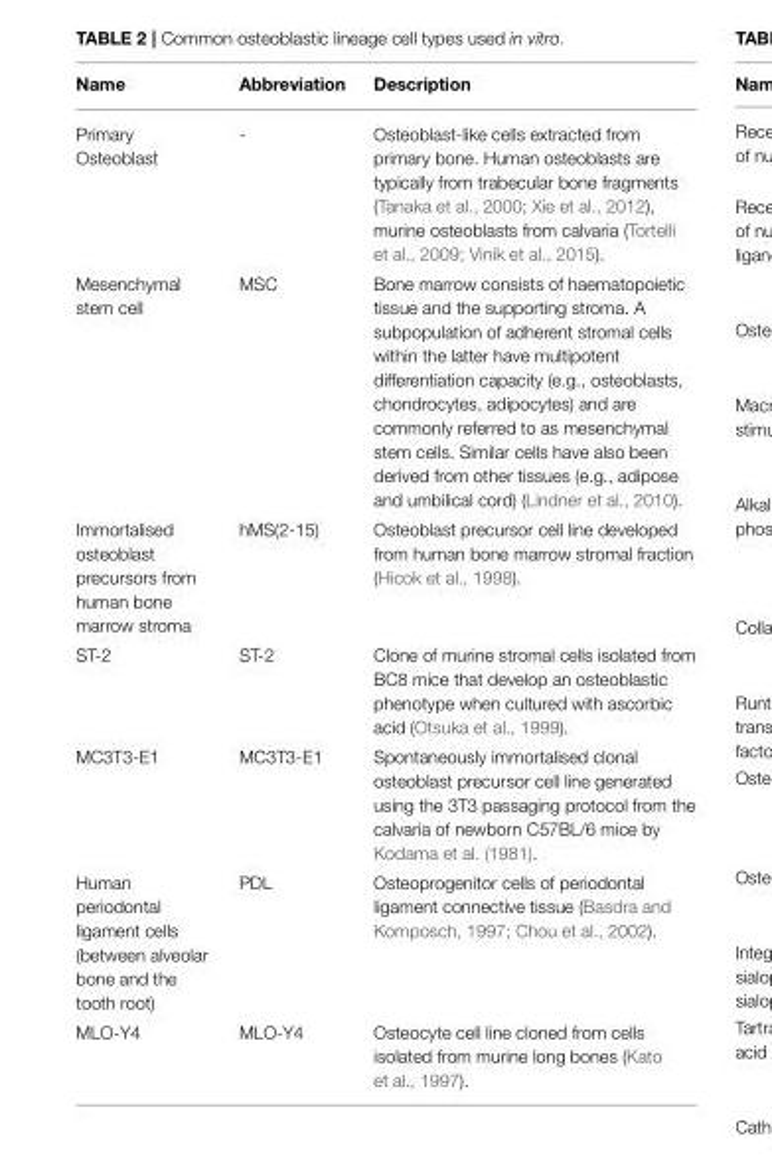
<table><thead><tr><td>Name</td><td>Abbreviation</td><td>Description</td></tr></thead><tbody><tr><td>Primary Osteoblast</td><td>-</td><td>Osteoblast-like cells extracted from primary bone. Human osteoblasts are typically from trabecular bone fragments (Tanaka et al., 2000; Xie et al., 2012), murine osteoblasts from calvaria (Tortelli et al., 2009; Vinik et al., 2015).</td></tr><tr><td>Mesenchymal stem cell</td><td>MSC</td><td>Bone marrow consists of haematopoietic tissue and the supporting stroma. A subpopulation of adherent stromal cells within the latter have multipotent differentiation capacity (e.g., osteoblasts, chondrocytes, adipocytes) and are commonly referred to as mesenchymal stem cells. Similar cells have also been derived from other tissues (e.g., adipose and umbilical cord) (Lindner et al., 2010).</td></tr><tr><td>Immortalised osteoblast precursors from human bone marrow stroma</td><td>hMS(2-15)</td><td>Osteoblast precursor cell line developed from human bone marrow stromal fraction (Hicok et al., 1998).</td></tr><tr><td>ST-2</td><td>ST-2</td><td>Clone of murine stromal cells isolated from BC8 mice that develop an osteoblastic phenotype when cultured with ascorbic acid (Otsuka et al., 1999).</td></tr><tr><td>MC3T3-E1</td><td>MC3T3-E1</td><td>Spontaneously immortalised clonal osteoblast precursor cell line generated using the 3T3 passaging protocol from the calvaria of newborn C57BL/6 mice by Kodama et al. (1981).</td></tr><tr><td>Human periodontal ligament cells (between alveolar bone and the tooth root)</td><td>PDL</td><td>Osteoprogenitor cells of periodontal ligament connective tissue (Basdra and Komposch, 1997; Chou et al., 2002).</td></tr><tr><td>MLO-Y4</td><td>MLO-Y4</td><td>Osteocyte cell line cloned from cells isolated from murine long bones (Kato et al., 1997).</td></tr></tbody></table>